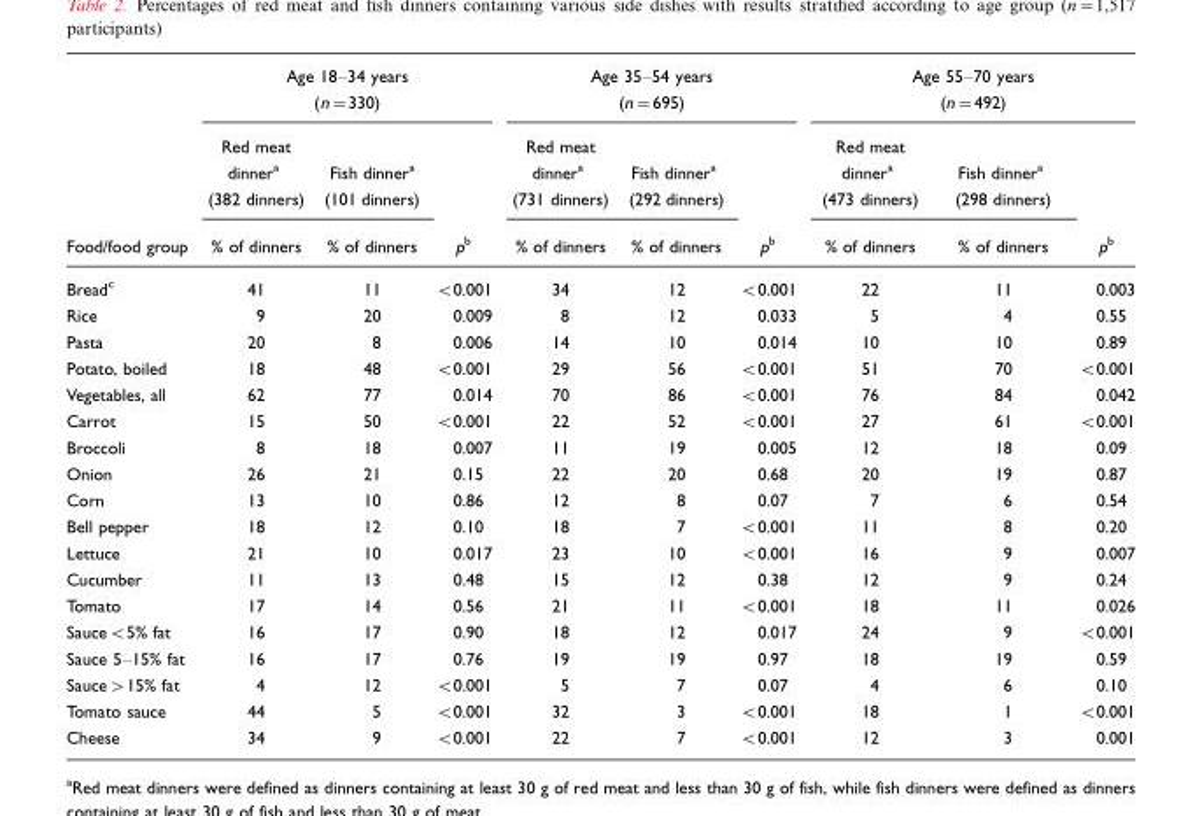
<table><thead><tr><td rowspan="3">Food/food group</td><td colspan="3">Age 18–34 years (n=330)</td><td colspan="3">Age 35–54 years (n=695)</td><td colspan="3">Age 55–70 years (n=492)</td></tr><tr><td rowspan="2">Red meat dinner<sup>a</sup> (382 dinners) % of dinners</td><td rowspan="2">Fish dinner<sup>a</sup> (101 dinners) % of dinners</td><td rowspan="2">pb</td><td rowspan="2">Red meat dinner<sup>a</sup> (731 dinners) % of dinners</td><td rowspan="2">Fish dinner<sup>a</sup> (292 dinners) % of dinners</td><td rowspan="2">pb</td><td rowspan="2">Red meat dinner<sup>a</sup> (473 dinners) % of dinners</td><td rowspan="2">Fish dinner<sup>a</sup> (298 dinners) % of dinners</td><td rowspan="2">pb</td></tr><tr></tr></thead><tbody><tr><td>Bread<sup>c</sup></td><td>41</td><td>11</td><td>&lt;0.001</td><td>34</td><td>12</td><td>&lt;0.001</td><td>22</td><td>11</td><td>0.003</td></tr><tr><td>Rice</td><td>9</td><td>20</td><td>0.009</td><td>8</td><td>12</td><td>0.033</td><td>5</td><td>4</td><td>0.55</td></tr><tr><td>Pasta</td><td>20</td><td>8</td><td>0.006</td><td>14</td><td>10</td><td>0.014</td><td>10</td><td>10</td><td>0.89</td></tr><tr><td>Potato, boiled</td><td>18</td><td>48</td><td>&lt;0.001</td><td>29</td><td>56</td><td>&lt;0.001</td><td>51</td><td>70</td><td>&lt;0.001</td></tr><tr><td>Vegetables, all</td><td>62</td><td>77</td><td>0.014</td><td>70</td><td>86</td><td>&lt;0.001</td><td>76</td><td>84</td><td>0.042</td></tr><tr><td>Carrot</td><td>15</td><td>50</td><td>&lt;0.001</td><td>22</td><td>52</td><td>&lt;0.001</td><td>27</td><td>61</td><td>&lt;0.001</td></tr><tr><td>Broccoli</td><td>8</td><td>18</td><td>0.007</td><td>11</td><td>19</td><td>0.005</td><td>12</td><td>18</td><td>0.09</td></tr><tr><td>Onion</td><td>26</td><td>21</td><td>0.15</td><td>22</td><td>20</td><td>0.68</td><td>20</td><td>19</td><td>0.87</td></tr><tr><td>Corn</td><td>13</td><td>10</td><td>0.86</td><td>12</td><td>8</td><td>0.07</td><td>7</td><td>6</td><td>0.54</td></tr><tr><td>Bell pepper</td><td>18</td><td>12</td><td>0.10</td><td>18</td><td>7</td><td>&lt;0.001</td><td>11</td><td>8</td><td>0.20</td></tr><tr><td>Lettuce</td><td>21</td><td>10</td><td>0.017</td><td>23</td><td>10</td><td>&lt;0.001</td><td>16</td><td>9</td><td>0.007</td></tr><tr><td>Cucumber</td><td>11</td><td>13</td><td>0.48</td><td>15</td><td>12</td><td>0.38</td><td>12</td><td>9</td><td>0.24</td></tr><tr><td>Tomato</td><td>17</td><td>14</td><td>0.56</td><td>21</td><td>11</td><td>&lt;0.001</td><td>18</td><td>11</td><td>0.026</td></tr><tr><td>Sauce&lt;5% fat</td><td>16</td><td>17</td><td>0.90</td><td>18</td><td>12</td><td>0.017</td><td>24</td><td>9</td><td>&lt;0.001</td></tr><tr><td>Sauce 5–15% fat</td><td>16</td><td>17</td><td>0.76</td><td>19</td><td>19</td><td>0.97</td><td>18</td><td>19</td><td>0.59</td></tr><tr><td>Sauce&gt;15% fat</td><td>4</td><td>12</td><td>&lt;0.001</td><td>5</td><td>7</td><td>0.07</td><td>4</td><td>6</td><td>0.10</td></tr><tr><td>Tomato sauce</td><td>44</td><td>5</td><td>&lt;0.001</td><td>32</td><td>3</td><td>&lt;0.001</td><td>18</td><td>1</td><td>&lt;0.001</td></tr><tr><td>Cheese</td><td>34</td><td>9</td><td>&lt;0.001</td><td>22</td><td>7</td><td>&lt;0.001</td><td>12</td><td>3</td><td>0.001</td></tr></tbody></table>